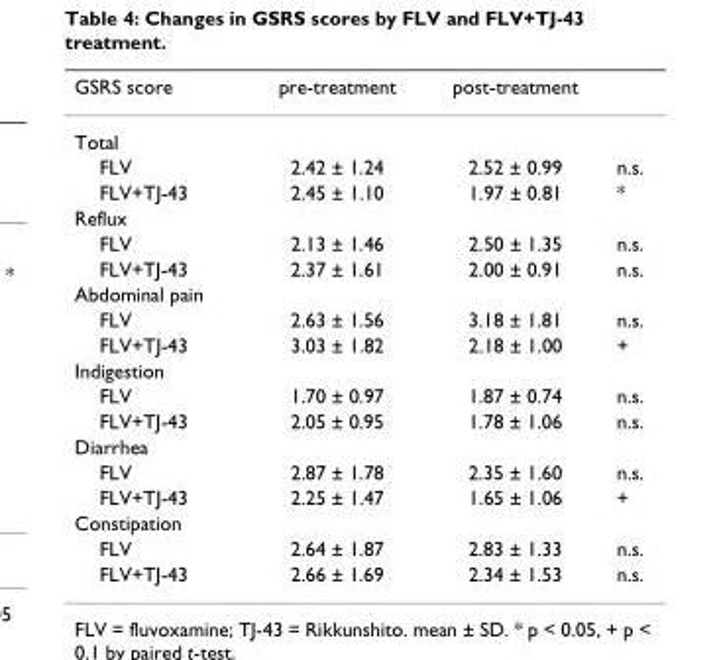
<table><thead><tr><td>GSRS score</td><td>pre-treatment</td><td>post-treatment</td><td></td></tr></thead><tbody><tr><td colspan="4">Total</td></tr><tr><td>FLV</td><td>2.42 ± 1.24</td><td>2.52 ± 0.99</td><td>n.s.</td></tr><tr><td>FLV+TJ-43</td><td>2.45 ± 1.10</td><td>1.97 ± 0.81</td><td>*</td></tr><tr><td colspan="4">Reflux</td></tr><tr><td>FLV</td><td>2.13 ± 1.46</td><td>2.50 ± 1.35</td><td>n.s.</td></tr><tr><td>FLV+TJ-43</td><td>2.37 ± 1.61</td><td>2.00 ± 0.91</td><td>n.s.</td></tr><tr><td colspan="4">Abdominal pain</td></tr><tr><td>FLV</td><td>2.63 ± 1.56</td><td>3.18 ± 1.81</td><td>n.s.</td></tr><tr><td>FLV+TJ-43</td><td>3.03 ± 1.82</td><td>2.18 ± 1.00</td><td>+</td></tr><tr><td colspan="4">Indigestion</td></tr><tr><td>FLV</td><td>1.70 ± 0.97</td><td>1.87 ± 0.74</td><td>n.s.</td></tr><tr><td>FLV+TJ-43</td><td>2.05 ± 0.95</td><td>1.78 ± 1.06</td><td>n.s.</td></tr><tr><td colspan="4">Diarrhea</td></tr><tr><td>FLV</td><td>2.87 ± 1.78</td><td>2.35 ± 1.60</td><td>n.s.</td></tr><tr><td>FLV+TJ-43</td><td>2.25 ± 1.47</td><td>1.65 ± 1.06</td><td>+</td></tr><tr><td colspan="4">Constipation</td></tr><tr><td>FLV</td><td>2.64 ± 1.87</td><td>2.83 ± 1.33</td><td>n.s.</td></tr><tr><td>FLV+TJ-43</td><td>2.66 ± 1.69</td><td>2.34 ± 1.53</td><td>n.s.</td></tr></tbody></table>